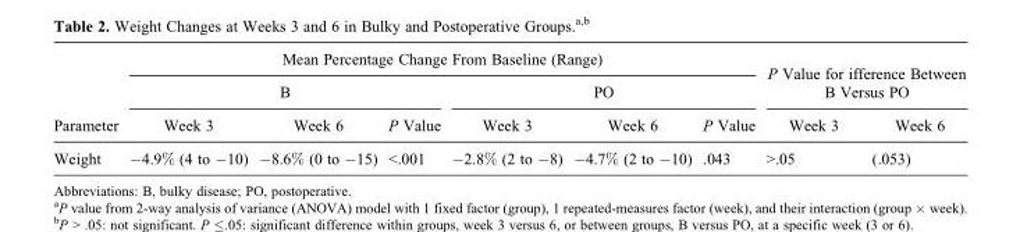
<table><thead><tr><td rowspan="3">Parameter</td><td colspan="6">Mean Percentage Change From Baseline (Range)</td><td rowspan="2" colspan="2">P Value for ifference Between B Versus PO</td></tr><tr><td colspan="3">B</td><td colspan="3">PO</td></tr><tr><td>Week 3</td><td>Week 6</td><td>P Value</td><td>Week 3</td><td>Week 6</td><td>P Value</td><td>Week 3</td><td>Week 6</td></tr></thead><tbody><tr><td>Weight</td><td>−4.9% (4 to −10)</td><td>−8.6% (0 to −15)</td><td>&lt;.001</td><td>−2.8% (2 to −8)</td><td>−4.7% (2 to −10)</td><td>.043</td><td>&gt;.05</td><td>(.053)</td></tr></tbody></table>